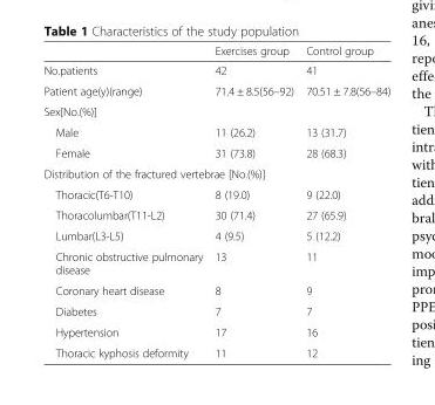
<table><thead><tr><td></td><td>Exercises group</td><td>Control group</td></tr></thead><tbody><tr><td>No.patients</td><td>42</td><td>41</td></tr><tr><td>Patient age(y)(range)</td><td>71.4 ± 8.5(56–92)</td><td>70.51 ± 7.8(56–84)</td></tr><tr><td colspan="3">Sex[No.(%)]</td></tr><tr><td>Male</td><td>11 (26.2)</td><td>13 (31.7)</td></tr><tr><td>Female</td><td>31 (73.8)</td><td>28 (68.3)</td></tr><tr><td colspan="3">Distribution of the fractured vertebrae [No.(%)]</td></tr><tr><td>Thoracic(T6-T10)</td><td>8 (19.0)</td><td>9 (22.0)</td></tr><tr><td>Thoracolumbar(T11-L2)</td><td>30 (71.4)</td><td>27 (65.9)</td></tr><tr><td>Lumbar(L3-L5)</td><td>4 (9.5)</td><td>5 (12.2)</td></tr><tr><td>Chronic obstructive pulmonary disease</td><td>13</td><td>11</td></tr><tr><td>Coronary heart disease</td><td>8</td><td>9</td></tr><tr><td>Diabetes</td><td>7</td><td>7</td></tr><tr><td>Hypertension</td><td>17</td><td>16</td></tr><tr><td>Thoracic kyphosis deformity</td><td>11</td><td>12</td></tr></tbody></table>